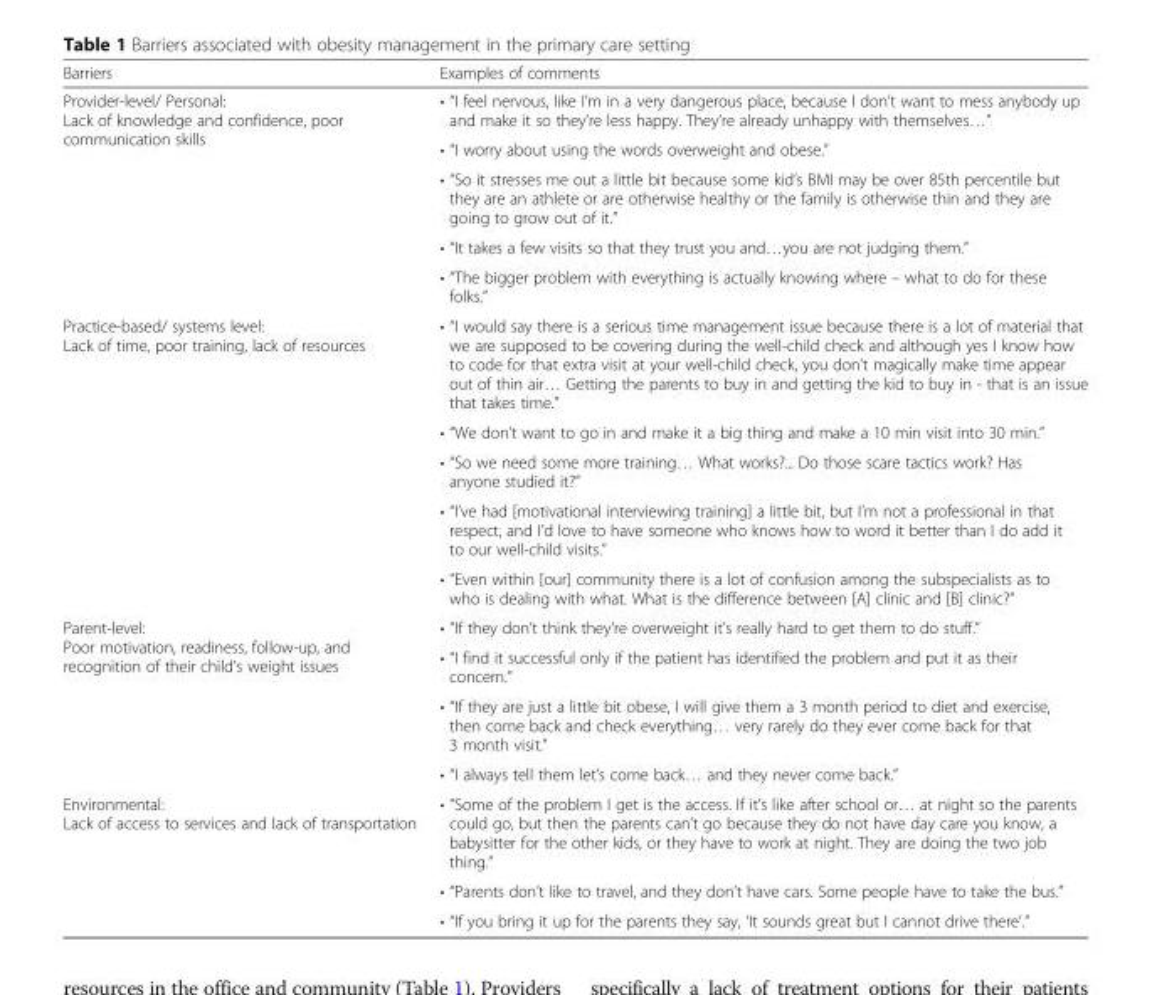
<table><thead><tr><td>Barriers</td><td>Examples of comments</td></tr></thead><tbody><tr><td rowspan="5">Provider-level/ Personal: Lack of knowledge and confidence, poor communication skills</td><td>• “I feel nervous, like I’m in a very dangerous place, because I don’t want to mess anybody up and make it so they’re less happy. They’re already unhappy with themselves…”</td></tr><tr><td>• “I worry about using the words overweight and obese.”</td></tr><tr><td>• “So it stresses me out a little bit because some kid’s BMI may be over 85th percentile but they are an athlete or are otherwise healthy or the family is otherwise thin and they are going to grow out of it.”</td></tr><tr><td>• “It takes a few visits so that they trust you and…you are not judging them.”</td></tr><tr><td>• “The bigger problem with everything is actually knowing where – what to do for these folks.”</td></tr><tr><td rowspan="5">Practice-based/ systems level: Lack of time, poor training, lack of resources</td><td>• “I would say there is a serious time management issue because there is a lot of material that we are supposed to be covering during the well-child check and although yes I know how to code for that extra visit at your well-child check, you don’t magically make time appear out of thin air… Getting the parents to buy in and getting the kid to buy in - that is an issue that takes time.”</td></tr><tr><td>• “We don’t want to go in and make it a big thing and make a 10 min visit into 30 min.”</td></tr><tr><td>• “So we need some more training… What works?... Do those scare tactics work? Has anyone studied it?”</td></tr><tr><td>• “I’ve had [motivational interviewing training] a little bit, but I’m not a professional in that respect, and I’d love to have someone who knows how to word it better than I do add it to our well-child visits.”</td></tr><tr><td>• “Even within [our] community there is a lot of confusion among the subspecialists as to who is dealing with what. What is the difference between [A] clinic and [B] clinic?”</td></tr><tr><td rowspan="4">Parent-level: Poor motivation, readiness, follow-up, and recognition of their child’s weight issues</td><td>• “If they don’t think they’re overweight it’s really hard to get them to do stuff.”</td></tr><tr><td>• “I find it successful only if the patient has identified the problem and put it as their concern.”</td></tr><tr><td>• “If they are just a little bit obese, I will give them a 3 month period to diet and exercise, then come back and check everything… very rarely do they ever come back for that 3 month visit.”</td></tr><tr><td>• “I always tell them let’s come back… and they never come back.”</td></tr><tr><td rowspan="3">Environmental: Lack of access to services and lack of transportation</td><td>• “Some of the problem I get is the access. If it’s like after school or… at night so the parents could go, but then the parents can’t go because they do not have day care you know, a babysitter for the other kids, or they have to work at night. They are doing the two job thing.”</td></tr><tr><td>• “Parents don’t like to travel, and they don’t have cars. Some people have to take the bus.”</td></tr><tr><td>• “If you bring it up for the parents they say, ‘It sounds great but I cannot drive there’.”</td></tr></tbody></table>